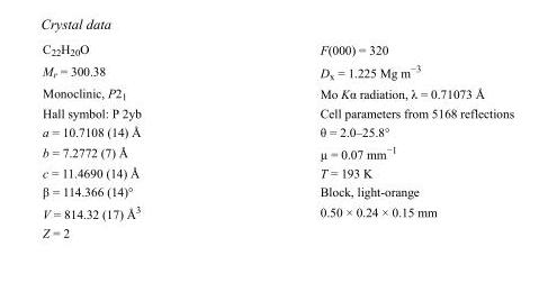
<table><tbody><tr><td>C<sub>22</sub>H<sub>20</sub>O</td><td>F(000) = 320</td></tr><tr><td>M<sub>r</sub> = 300.38</td><td>D<sub>x</sub> = 1.225 Mg m<sup>−3</sup></td></tr><tr><td>Monoclinic, P2<sub>1</sub></td><td>Mo Kα radiation, λ = 0.71073 Å</td></tr><tr><td>Hall symbol: P 2yb</td><td>Cell parameters from 5168 reflections</td></tr><tr><td>a = 10.7108 (14) Å</td><td>θ = 2.0–25.8°</td></tr><tr><td>b = 7.2772 (7) Å</td><td>µ = 0.07 mm<sup>−1</sup></td></tr><tr><td>c = 11.4690 (14) Å</td><td>T = 193 K</td></tr><tr><td>β = 114.366 (14)°</td><td>Block, light-orange</td></tr><tr><td>V = 814.32 (17) Å<sup>3</sup></td><td>0.50 × 0.24 × 0.15 mm</td></tr><tr><td>Z = 2</td><td></td></tr></tbody></table>